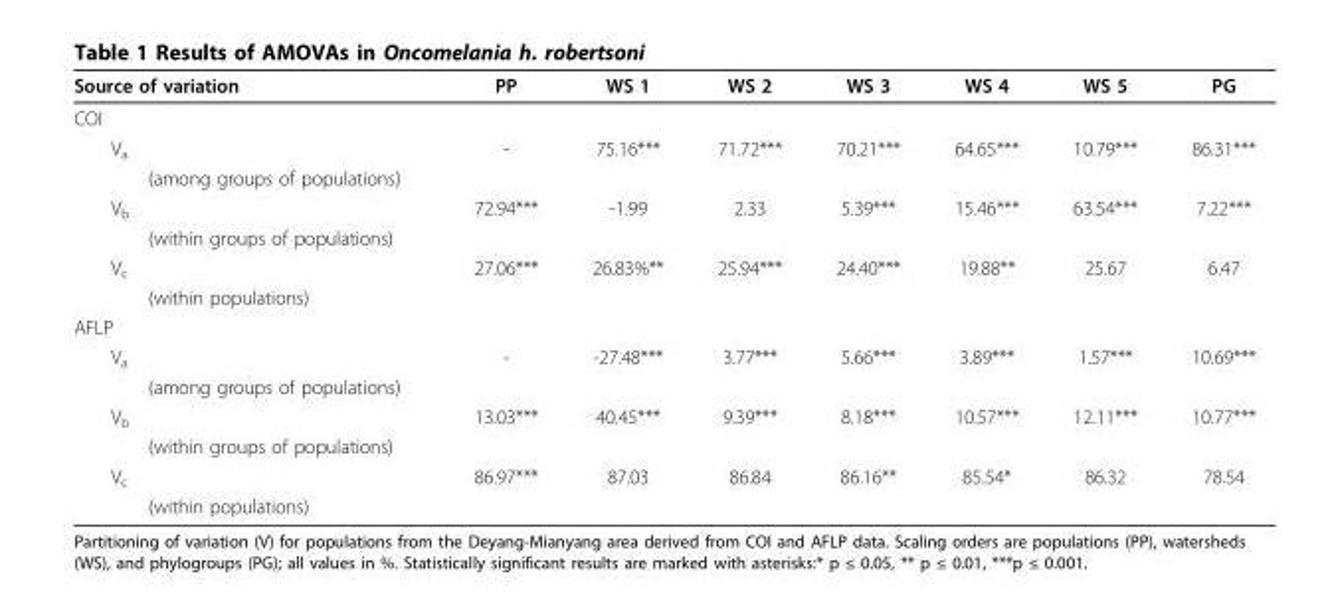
<table><thead><tr><td>Source of variation</td><td>PP</td><td>WS 1</td><td>WS 2</td><td>WS 3</td><td>WS 4</td><td>WS 5</td><td>PG</td></tr></thead><tbody><tr><td colspan="8">COI</td></tr><tr><td>V<sub>a</sub></td><td>-</td><td>75.16***</td><td>71.72***</td><td>70.21***</td><td>64.65***</td><td>10.79***</td><td>86.31***</td></tr><tr><td colspan="8">(among groups of populations)</td></tr><tr><td>V<sub>b</sub></td><td>72.94***</td><td>-1.99</td><td>2.33</td><td>5.39***</td><td>15.46***</td><td>63.54***</td><td>7.22***</td></tr><tr><td colspan="8">(within groups of populations)</td></tr><tr><td>V<sub>c</sub></td><td>27.06***</td><td>26.83%**</td><td>25.94***</td><td>24.40***</td><td>19.88**</td><td>25.67</td><td>6.47</td></tr><tr><td colspan="8">(within populations)</td></tr><tr><td colspan="8">AFLP</td></tr><tr><td>V<sub>a</sub></td><td>-</td><td>-27.48***</td><td>3.77***</td><td>5.66***</td><td>3.89***</td><td>1.57***</td><td>10.69***</td></tr><tr><td colspan="8">(among groups of populations)</td></tr><tr><td>V<sub>b</sub></td><td>13.03***</td><td>40.45***</td><td>9.39***</td><td>8.18***</td><td>10.57***</td><td>12.11***</td><td>10.77***</td></tr><tr><td colspan="8">(within groups of populations)</td></tr><tr><td>V<sub>c</sub></td><td>86.97***</td><td>87.03</td><td>86.84</td><td>86.16**</td><td>85.54*</td><td>86.32</td><td>78.54</td></tr><tr><td>(within populations)</td><td></td><td></td><td></td><td></td><td></td><td></td><td></td></tr></tbody></table>